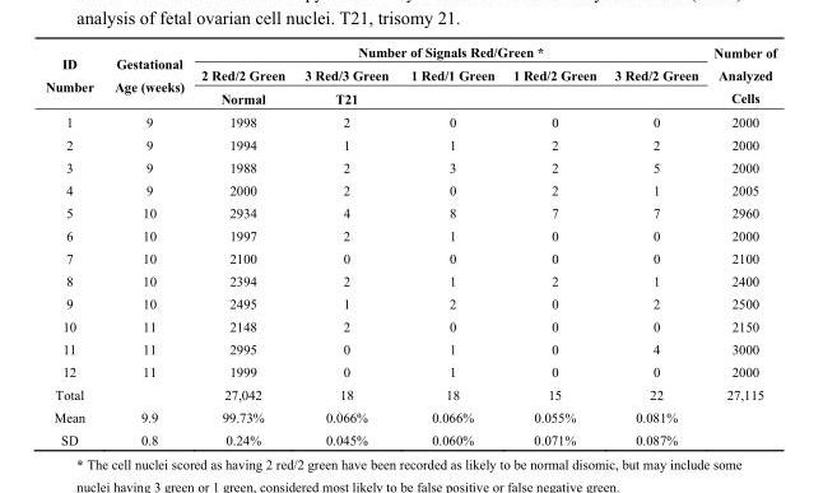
<table><thead><tr><td rowspan="3">ID Number</td><td rowspan="3">Gestational Age (weeks)</td><td colspan="5">Number of Signals Red/Green *</td><td rowspan="3">Number of Analyzed Cells</td></tr><tr><td rowspan="2">2 Red/2 Green Normal</td><td rowspan="2">3 Red/3 Green T21</td><td rowspan="2">1 Red/1 Green</td><td rowspan="2">1 Red/2 Green</td><td rowspan="2">3 Red/2 Green</td></tr><tr></tr></thead><tbody><tr><td>1</td><td>9</td><td>1998</td><td>2</td><td>0</td><td>0</td><td>0</td><td>2000</td></tr><tr><td>2</td><td>9</td><td>1994</td><td>1</td><td>1</td><td>2</td><td>2</td><td>2000</td></tr><tr><td>3</td><td>9</td><td>1988</td><td>2</td><td>3</td><td>2</td><td>5</td><td>2000</td></tr><tr><td>4</td><td>9</td><td>2000</td><td>2</td><td>0</td><td>2</td><td>1</td><td>2005</td></tr><tr><td>5</td><td>10</td><td>2934</td><td>4</td><td>8</td><td>7</td><td>7</td><td>2960</td></tr><tr><td>6</td><td>10</td><td>1997</td><td>2</td><td>1</td><td>0</td><td>0</td><td>2000</td></tr><tr><td>7</td><td>10</td><td>2100</td><td>0</td><td>0</td><td>0</td><td>0</td><td>2100</td></tr><tr><td>8</td><td>10</td><td>2394</td><td>2</td><td>1</td><td>2</td><td>1</td><td>2400</td></tr><tr><td>9</td><td>10</td><td>2495</td><td>1</td><td>2</td><td>0</td><td>2</td><td>2500</td></tr><tr><td>10</td><td>11</td><td>2148</td><td>2</td><td>0</td><td>0</td><td>0</td><td>2150</td></tr><tr><td>11</td><td>11</td><td>2995</td><td>0</td><td>1</td><td>0</td><td>4</td><td>3000</td></tr><tr><td>12</td><td>11</td><td>1999</td><td>0</td><td>1</td><td>0</td><td>0</td><td>2000</td></tr><tr><td>Total</td><td></td><td>27,042</td><td>18</td><td>18</td><td>15</td><td>22</td><td>27,115</td></tr><tr><td>Mean</td><td>9.9</td><td>99.73%</td><td>0.066%</td><td>0.066%</td><td>0.055%</td><td>0.081%</td><td></td></tr><tr><td>SD</td><td>0.8</td><td>0.24%</td><td>0.045%</td><td>0.060%</td><td>0.071%</td><td>0.087%</td><td></td></tr></tbody></table>